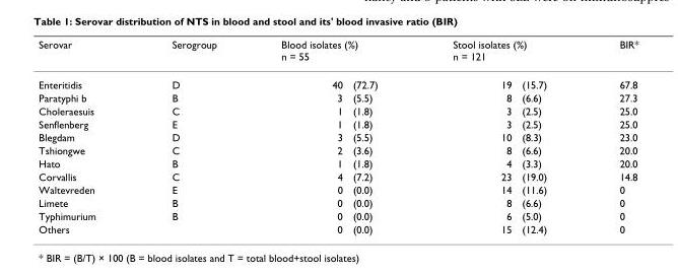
<table><thead><tr><td rowspan="2">Serovar Enteritidis</td><td rowspan="2">Serogroup D</td><td colspan="2">Blood isolates (%) n = 55</td><td colspan="2">Stool isolates (%) n = 121</td><td rowspan="2">BIR* 67.8</td></tr><tr><td>40</td><td>(72.7)</td><td>19</td><td>(15.7)</td></tr></thead><tbody><tr><td>Paratyphi b</td><td>B</td><td>3</td><td>(5.5)</td><td>8</td><td>(6.6)</td><td>27.3</td></tr><tr><td>Choleraesuis</td><td>C</td><td>1</td><td>(1.8)</td><td>3</td><td>(2.5)</td><td>25.0</td></tr><tr><td>Senflenberg</td><td>E</td><td>1</td><td>(1.8)</td><td>3</td><td>(2.5)</td><td>25.0</td></tr><tr><td>Blegdam</td><td>D</td><td>3</td><td>(5.5)</td><td>10</td><td>(8.3)</td><td>23.0</td></tr><tr><td>Tshiongwe</td><td>C</td><td>2</td><td>(3.6)</td><td>8</td><td>(6.6)</td><td>20.0</td></tr><tr><td>Hato</td><td>B</td><td>1</td><td>(1.8)</td><td>4</td><td>(3.3)</td><td>20.0</td></tr><tr><td>Corvallis</td><td>C</td><td>4</td><td>(7.2)</td><td>23</td><td>(19.0)</td><td>14.8</td></tr><tr><td>Waltevreden</td><td>E</td><td>0</td><td>(0.0)</td><td>14</td><td>(11.6)</td><td>0</td></tr><tr><td>Limete</td><td>B</td><td>0</td><td>(0.0)</td><td>8</td><td>(6.6)</td><td>0</td></tr><tr><td>Typhimurium</td><td>B</td><td>0</td><td>(0.0)</td><td>6</td><td>(5.0)</td><td>0</td></tr><tr><td>Others</td><td></td><td>0</td><td>(0.0)</td><td>15</td><td>(12.4)</td><td>0</td></tr></tbody></table>